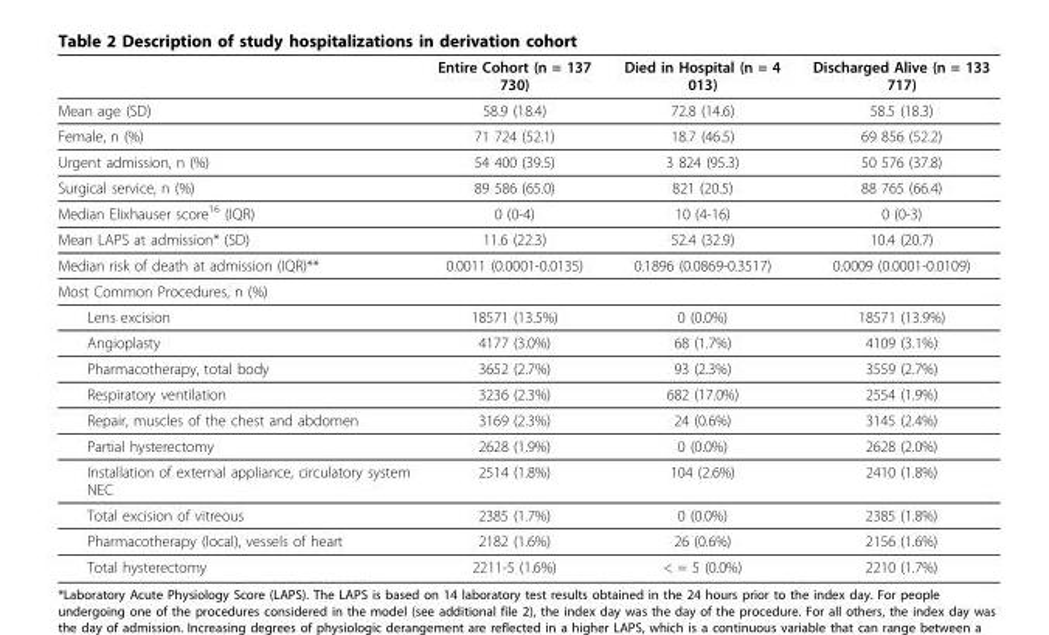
<table><thead><tr><td></td><td>Entire Cohort (n = 137 730)</td><td>Died in Hospital (n = 4 013)</td><td>Discharged Alive (n = 133 717)</td></tr></thead><tbody><tr><td>Mean age (SD)</td><td>58.9 (18.4)</td><td>72.8 (14.6)</td><td>58.5 (18.3)</td></tr><tr><td>Female, n (%)</td><td>71 724 (52.1)</td><td>18.7 (46.5)</td><td>69 856 (52.2)</td></tr><tr><td>Urgent admission, n (%)</td><td>54 400 (39.5)</td><td>3 824 (95.3)</td><td>50 576 (37.8)</td></tr><tr><td>Surgical service, n (%)</td><td>89 586 (65.0)</td><td>821 (20.5)</td><td>88 765 (66.4)</td></tr><tr><td>Median Elixhauser score<sup>16</sup> (IQR)</td><td>0 (0-4)</td><td>10 (4-16)</td><td>0 (0-3)</td></tr><tr><td>Mean LAPS at admission* (SD)</td><td>11.6 (22.3)</td><td>52.4 (32.9)</td><td>10.4 (20.7)</td></tr><tr><td>Median risk of death at admission (IQR)**</td><td>0.0011 (0.0001-0.0135)</td><td>0.1896 (0.0869-0.3517)</td><td>0.0009 (0.0001-0.0109)</td></tr><tr><td colspan="4">Most Common Procedures, n (%)</td></tr><tr><td>Lens excision</td><td>18571 (13.5%)</td><td>0 (0.0%)</td><td>18571 (13.9%)</td></tr><tr><td>Angioplasty</td><td>4177 (3.0%)</td><td>68 (1.7%)</td><td>4109 (3.1%)</td></tr><tr><td>Pharmacotherapy, total body</td><td>3652 (2.7%)</td><td>93 (2.3%)</td><td>3559 (2.7%)</td></tr><tr><td>Respiratory ventilation</td><td>3236 (2.3%)</td><td>682 (17.0%)</td><td>2554 (1.9%)</td></tr><tr><td>Repair, muscles of the chest and abdomen</td><td>3169 (2.3%)</td><td>24 (0.6%)</td><td>3145 (2.4%)</td></tr><tr><td>Partial hysterectomy</td><td>2628 (1.9%)</td><td>0 (0.0%)</td><td>2628 (2.0%)</td></tr><tr><td>Installation of external appliance, circulatory system NEC</td><td>2514 (1.8%)</td><td>104 (2.6%)</td><td>2410 (1.8%)</td></tr><tr><td>Total excision of vitreous</td><td>2385 (1.7%)</td><td>0 (0.0%)</td><td>2385 (1.8%)</td></tr><tr><td>Pharmacotherapy (local), vessels of heart</td><td>2182 (1.6%)</td><td>26 (0.6%)</td><td>2156 (1.6%)</td></tr><tr><td>Total hysterectomy</td><td>2211-5 (1.6%)</td><td>&lt; = 5 (0.0%)</td><td>2210 (1.7%)</td></tr></tbody></table>